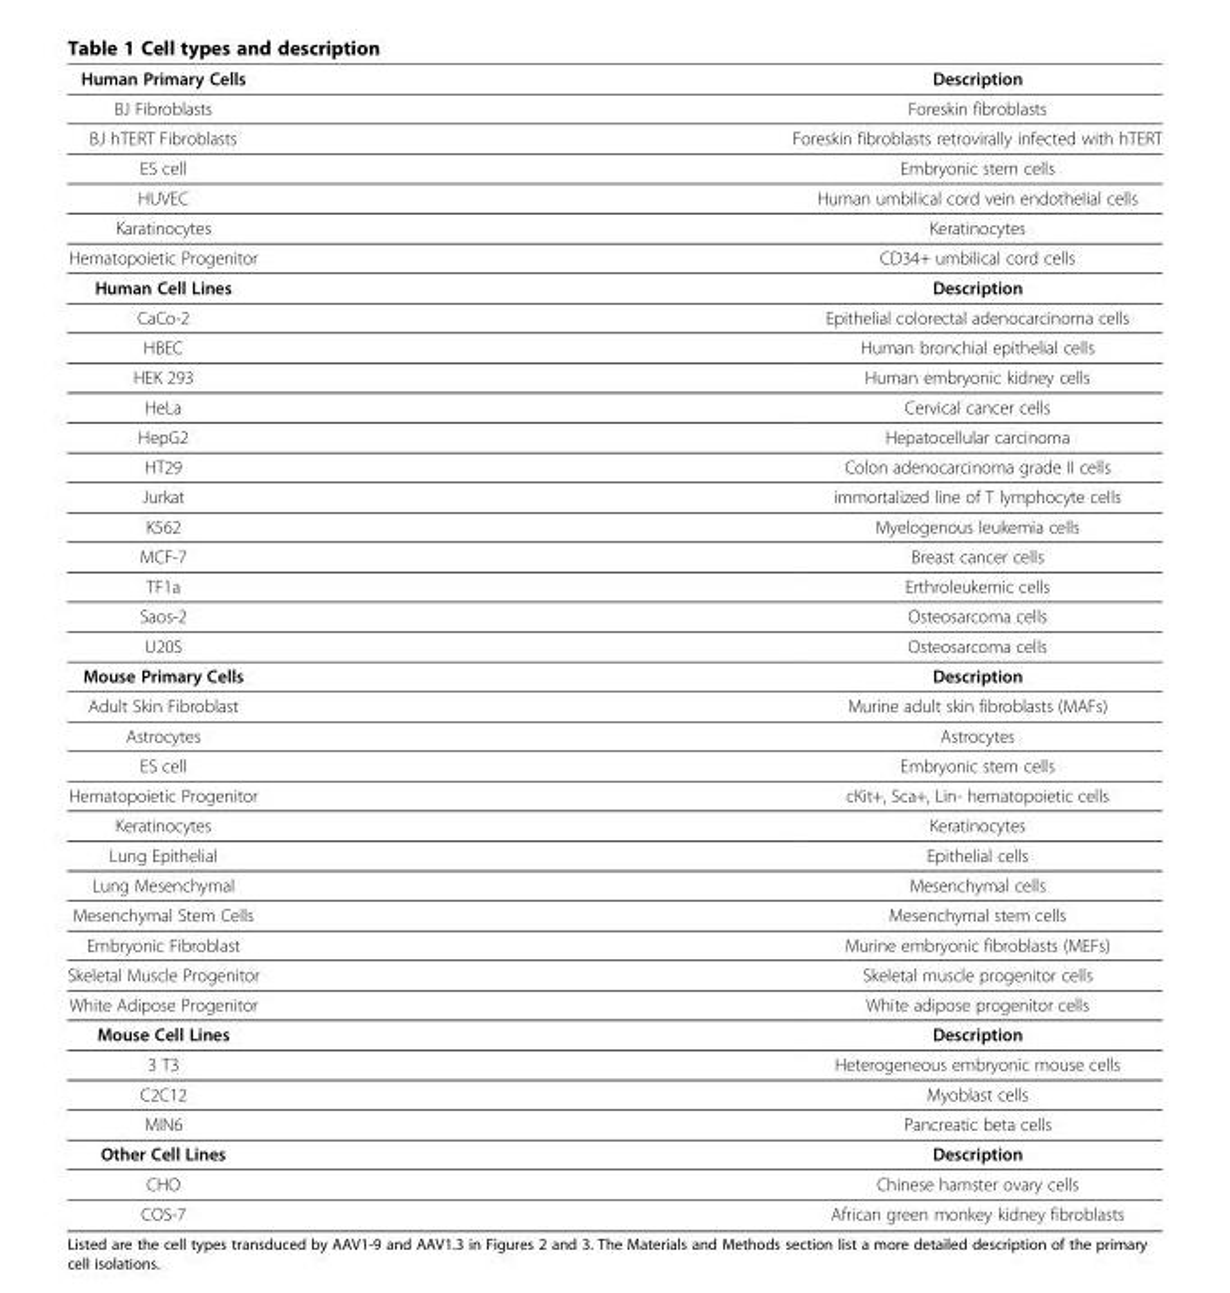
<table><tbody><tr><td>Human Primary Cells</td><td>Description</td></tr><tr><td>BJ Fibroblasts</td><td>Foreskin fibroblasts</td></tr><tr><td>BJ hTERT Fibroblasts</td><td>Foreskin fibroblasts retrovirally infected with hTERT</td></tr><tr><td>ES cell</td><td>Embryonic stem cells</td></tr><tr><td>HUVEC</td><td>Human umbilical cord vein endothelial cells</td></tr><tr><td>Karatinocytes</td><td>Keratinocytes</td></tr><tr><td>Hematopoietic Progenitor</td><td>CD34+ umbilical cord cells</td></tr><tr><td>Human Cell Lines</td><td>Description</td></tr><tr><td>CaCo-2</td><td>Epithelial colorectal adenocarcinoma cells</td></tr><tr><td>HBEC</td><td>Human bronchial epithelial cells</td></tr><tr><td>HEK 293</td><td>Human embryonic kidney cells</td></tr><tr><td>HeLa</td><td>Cervical cancer cells</td></tr><tr><td>HepG2</td><td>Hepatocellular carcinoma</td></tr><tr><td>HT29</td><td>Colon adenocarcinoma grade II cells</td></tr><tr><td>Jurkat</td><td>immortalized line of T lymphocyte cells</td></tr><tr><td>K562</td><td>Myelogenous leukemia cells</td></tr><tr><td>MCF-7</td><td>Breast cancer cells</td></tr><tr><td>TF1a</td><td>Erthroleukemic cells</td></tr><tr><td>Saos-2</td><td>Osteosarcoma cells</td></tr><tr><td>U20S</td><td>Osteosarcoma cells</td></tr><tr><td>Mouse Primary Cells</td><td>Description</td></tr><tr><td>Adult Skin Fibroblast</td><td>Murine adult skin fibroblasts (MAFs)</td></tr><tr><td>Astrocytes</td><td>Astrocytes</td></tr><tr><td>ES cell</td><td>Embryonic stem cells</td></tr><tr><td>Hematopoietic Progenitor</td><td>cKit+, Sca+, Lin- hematopoietic cells</td></tr><tr><td>Keratinocytes</td><td>Keratinocytes</td></tr><tr><td>Lung Epithelial</td><td>Epithelial cells</td></tr><tr><td>Lung Mesenchymal</td><td>Mesenchymal cells</td></tr><tr><td>Mesenchymal Stem Cells</td><td>Mesenchymal stem cells</td></tr><tr><td>Embryonic Fibroblast</td><td>Murine embryonic fibroblasts (MEFs)</td></tr><tr><td>Skeletal Muscle Progenitor</td><td>Skeletal muscle progenitor cells</td></tr><tr><td>White Adipose Progenitor</td><td>White adipose progenitor cells</td></tr><tr><td>Mouse Cell Lines</td><td>Description</td></tr><tr><td>3 T3</td><td>Heterogeneous embryonic mouse cells</td></tr><tr><td>C2C12</td><td>Myoblast cells</td></tr><tr><td>MIN6</td><td>Pancreatic beta cells</td></tr><tr><td>Other Cell Lines</td><td>Description</td></tr><tr><td>CHO</td><td>Chinese hamster ovary cells</td></tr><tr><td>COS-7</td><td>African green monkey kidney fibroblasts</td></tr></tbody></table>